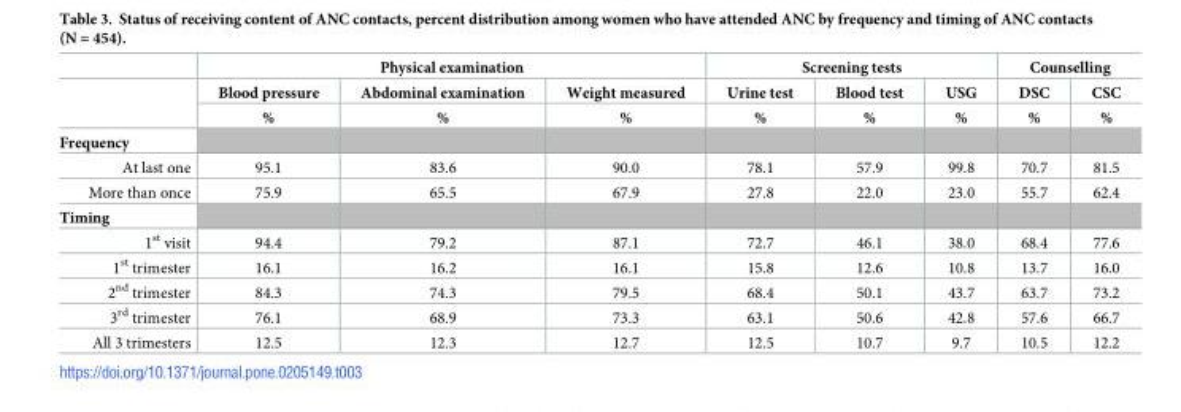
<table><thead><tr><td rowspan="3"></td><td colspan="3">Physical examination</td><td colspan="3">Screening tests</td><td colspan="2">Counselling</td></tr><tr><td rowspan="2">Blood pressure %</td><td rowspan="2">Abdominal examination %</td><td rowspan="2">Weight measured %</td><td rowspan="2">Urine test %</td><td rowspan="2">Blood test %</td><td rowspan="2">USG %</td><td rowspan="2">DSC %</td><td rowspan="2">CSC %</td></tr><tr></tr></thead><tbody><tr><td colspan="9">Frequency</td></tr><tr><td>At last one</td><td>95.1</td><td>83.6</td><td>90.0</td><td>78.1</td><td>57.9</td><td>99.8</td><td>70.7</td><td>81.5</td></tr><tr><td>More than once</td><td>75.9</td><td>65.5</td><td>67.9</td><td>27.8</td><td>22.0</td><td>23.0</td><td>55.7</td><td>62.4</td></tr><tr><td colspan="9">Timing</td></tr><tr><td>1<sup>st</sup> visit</td><td>94.4</td><td>79.2</td><td>87.1</td><td>72.7</td><td>46.1</td><td>38.0</td><td>68.4</td><td>77.6</td></tr><tr><td>1<sup>st</sup> trimester</td><td>16.1</td><td>16.2</td><td>16.1</td><td>15.8</td><td>12.6</td><td>10.8</td><td>13.7</td><td>16.0</td></tr><tr><td>2<sup>nd</sup> trimester</td><td>84.3</td><td>74.3</td><td>79.5</td><td>68.4</td><td>50.1</td><td>43.7</td><td>63.7</td><td>73.2</td></tr><tr><td>3<sup>rd</sup> trimester</td><td>76.1</td><td>68.9</td><td>73.3</td><td>63.1</td><td>50.6</td><td>42.8</td><td>57.6</td><td>66.7</td></tr><tr><td>All 3 trimesters</td><td>12.5</td><td>12.3</td><td>12.7</td><td>12.5</td><td>10.7</td><td>9.7</td><td>10.5</td><td>12.2</td></tr></tbody></table>